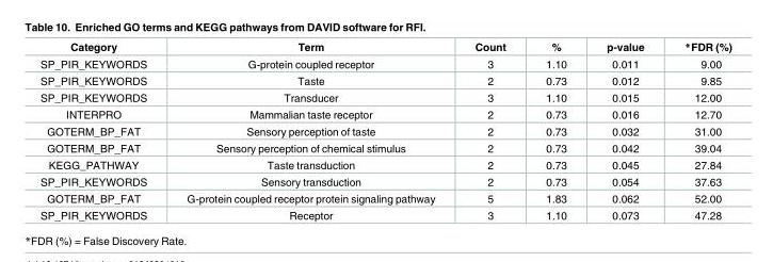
<table><thead><tr><td>Category</td><td>Term</td><td>Count</td><td>%</td><td>p-value</td><td>*FDR (%)</td></tr></thead><tbody><tr><td>SP_PIR_KEYWORDS</td><td>G-protein coupled receptor</td><td>3</td><td>1.10</td><td>0.011</td><td>9.00</td></tr><tr><td>SP_PIR_KEYWORDS</td><td>Taste</td><td>2</td><td>0.73</td><td>0.012</td><td>9.85</td></tr><tr><td>SP_PIR_KEYWORDS</td><td>Transducer</td><td>3</td><td>1.10</td><td>0.015</td><td>12.00</td></tr><tr><td>INTERPRO</td><td>Mammalian taste receptor</td><td>2</td><td>0.73</td><td>0.016</td><td>12.70</td></tr><tr><td>GOTERM_BP_FAT</td><td>Sensory perception of taste</td><td>2</td><td>0.73</td><td>0.032</td><td>31.00</td></tr><tr><td>GOTERM_BP_FAT</td><td>Sensory perception of chemical stimulus</td><td>2</td><td>0.73</td><td>0.042</td><td>39.04</td></tr><tr><td>KEGG_PATHWAY</td><td>Taste transduction</td><td>2</td><td>0.73</td><td>0.045</td><td>27.84</td></tr><tr><td>SP_PIR_KEYWORDS</td><td>Sensory transduction</td><td>2</td><td>0.73</td><td>0.054</td><td>37.63</td></tr><tr><td>GOTERM_BP_FAT</td><td>G-protein coupled receptor protein signaling pathway</td><td>5</td><td>1.83</td><td>0.062</td><td>52.00</td></tr><tr><td>SP_PIR_KEYWORDS</td><td>Receptor</td><td>3</td><td>1.10</td><td>0.073</td><td>47.28</td></tr></tbody></table>